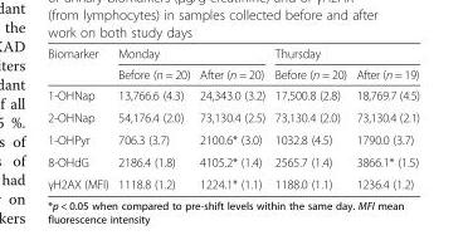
<table><thead><tr><td rowspan="2">Biomarker</td><td colspan="2">Monday</td><td colspan="2">Thursday</td></tr><tr><td>Before (n = 20)</td><td>After (n = 20)</td><td>Before (n = 20)</td><td>After (n = 19)</td></tr></thead><tbody><tr><td>1-OHNap</td><td>13,766.6 (4.3)</td><td>24,343.0 (3.2)</td><td>17,500.8 (2.8)</td><td>18,769.7 (4.5)</td></tr><tr><td>2-OHNap</td><td>54,176.4 (2.0)</td><td>73,130.4 (2.5)</td><td>73,130.4 (2.0)</td><td>73,130.4 (2.1)</td></tr><tr><td>1-OHPyr</td><td>706.3 (3.7)</td><td>2100.6* (3.0)</td><td>1032.8 (4.5)</td><td>1790.0 (3.7)</td></tr><tr><td>8-OHdG</td><td>2186.4 (1.8)</td><td>4105.2* (1.4)</td><td>2565.7 (1.4)</td><td>3866.1* (1.5)</td></tr><tr><td>γH2AX (MFI)</td><td>1118.8 (1.2)</td><td>1224.1* (1.1)</td><td>1188.0 (1.1)</td><td>1236.4 (1.2)</td></tr></tbody></table>